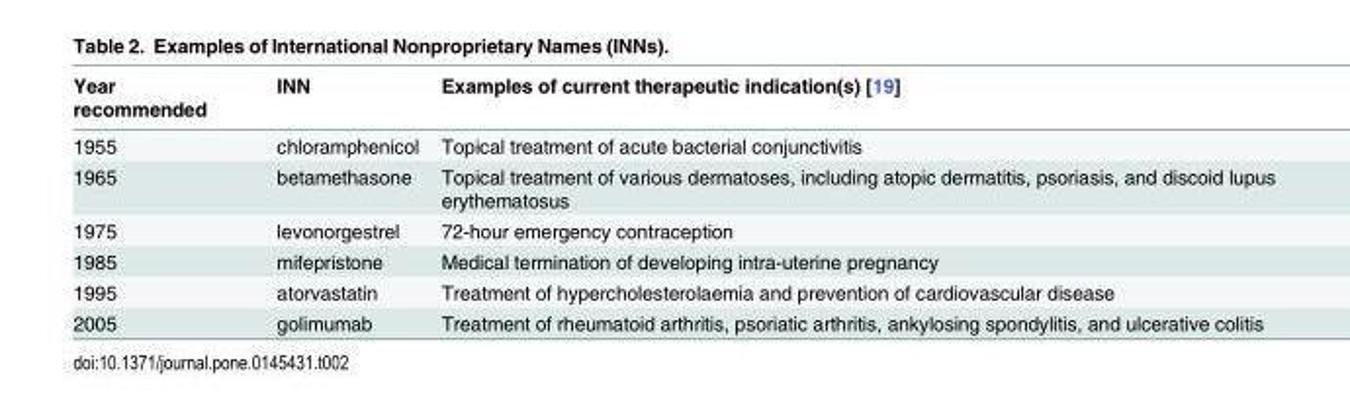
<table><thead><tr><td>Year recommended</td><td>INN</td><td>Examples of current therapeutic indication(s) [19]</td></tr></thead><tbody><tr><td>1955</td><td>chloramphenicol</td><td>Topical treatment of acute bacterial conjunctivitis</td></tr><tr><td>1965</td><td>betamethasone</td><td>Topical treatment of various dermatoses, including atopic dermatitis, psoriasis, and discoid lupus erythematosus</td></tr><tr><td>1975</td><td>levonorgestrel</td><td>72-hour emergency contraception</td></tr><tr><td>1985</td><td>mifepristone</td><td>Medical termination of developing intra-uterine pregnancy</td></tr><tr><td>1995</td><td>atorvastatin</td><td>Treatment of hypercholesterolaemia and prevention of cardiovascular disease</td></tr><tr><td>2005</td><td>golimumab</td><td>Treatment of rheumatoid arthritis, psoriatic arthritis, ankylosing spondylitis, and ulcerative colitis</td></tr></tbody></table>